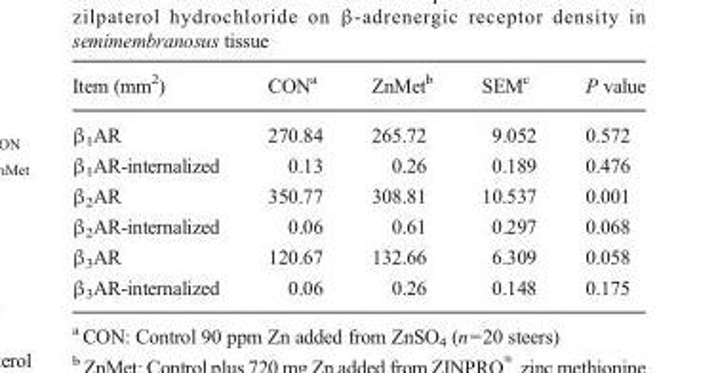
<table><thead><tr><td>Item (mm<sup>2</sup>)</td><td>CON<sup>a</sup></td><td>ZnMet<sup>b</sup></td><td>SEM<sup>c</sup></td><td>P value</td></tr></thead><tbody><tr><td>β<sub>1</sub>AR</td><td>270.84</td><td>265.72</td><td>9.052</td><td>0.572</td></tr><tr><td>β<sub>1</sub>AR-internalized</td><td>0.13</td><td>0.26</td><td>0.189</td><td>0.476</td></tr><tr><td>β<sub>2</sub>AR</td><td>350.77</td><td>308.81</td><td>10.537</td><td>0.001</td></tr><tr><td>β<sub>2</sub>AR-internalized</td><td>0.06</td><td>0.61</td><td>0.297</td><td>0.068</td></tr><tr><td>β<sub>3</sub>AR</td><td>120.67</td><td>132.66</td><td>6.309</td><td>0.058</td></tr><tr><td>β<sub>3</sub>AR-internalized</td><td>0.06</td><td>0.26</td><td>0.148</td><td>0.175</td></tr></tbody></table>